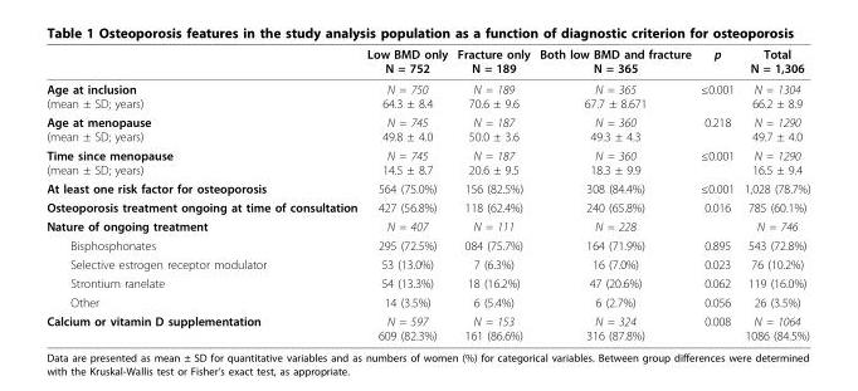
<table><thead><tr><td></td><td>Low BMD only N = 752</td><td>Fracture only N = 189</td><td>Both low BMD and fracture N = 365</td><td>p</td><td>Total N = 1,306</td></tr></thead><tbody><tr><td>Age at inclusion (mean ± SD; years)</td><td>N = 750 64.3 ± 8.4</td><td>N = 189 70.6 ± 9.6</td><td>N = 365 67.7 ± 8.671</td><td>≤0.001</td><td>N = 1304 66.2 ± 8.9</td></tr><tr><td>Age at menopause (mean ± SD; years)</td><td>N = 745 49.8 ± 4.0</td><td>N = 187 50.0 ± 3.6</td><td>N = 360 49.3 ± 4.3</td><td>0.218</td><td>N = 1290 49.7 ± 4.0</td></tr><tr><td>Time since menopause (mean ± SD; years)</td><td>N = 745 14.5 ± 8.7</td><td>N = 187 20.6 ± 9.5</td><td>N = 360 18.3 ± 9.9</td><td>≤0.001</td><td>N = 1290 16.5 ± 9.4</td></tr><tr><td>At least one risk factor for osteoporosis</td><td>564 (75.0%)</td><td>156 (82.5%)</td><td>308 (84.4%)</td><td>≤0.001</td><td>1,028 (78.7%)</td></tr><tr><td>Osteoporosis treatment ongoing at time of consultation</td><td>427 (56.8%)</td><td>118 (62.4%)</td><td>240 (65.8%)</td><td>0.016</td><td>785 (60.1%)</td></tr><tr><td>Nature of ongoing treatment</td><td>N = 407</td><td>N = 111</td><td>N = 228</td><td></td><td>N = 746</td></tr><tr><td>Bisphosphonates</td><td>295 (72.5%)</td><td>084 (75.7%)</td><td>164 (71.9%)</td><td>0.895</td><td>543 (72.8%)</td></tr><tr><td>Selective estrogen receptor modulator</td><td>53 (13.0%)</td><td>7 (6.3%)</td><td>16 (7.0%)</td><td>0.023</td><td>76 (10.2%)</td></tr><tr><td>Strontium ranelate</td><td>54 (13.3%)</td><td>18 (16.2%)</td><td>47 (20.6%)</td><td>0.062</td><td>119 (16.0%)</td></tr><tr><td>Other</td><td>14 (3.5%)</td><td>6 (5.4%)</td><td>6 (2.7%)</td><td>0.056</td><td>26 (3.5%)</td></tr><tr><td>Calcium or vitamin D supplementation</td><td>N = 597 609 (82.3%)</td><td>N = 153 161 (86.6%)</td><td>N = 324 316 (87.8%)</td><td>0.008</td><td>N = 1064 1086 (84.5%)</td></tr></tbody></table>